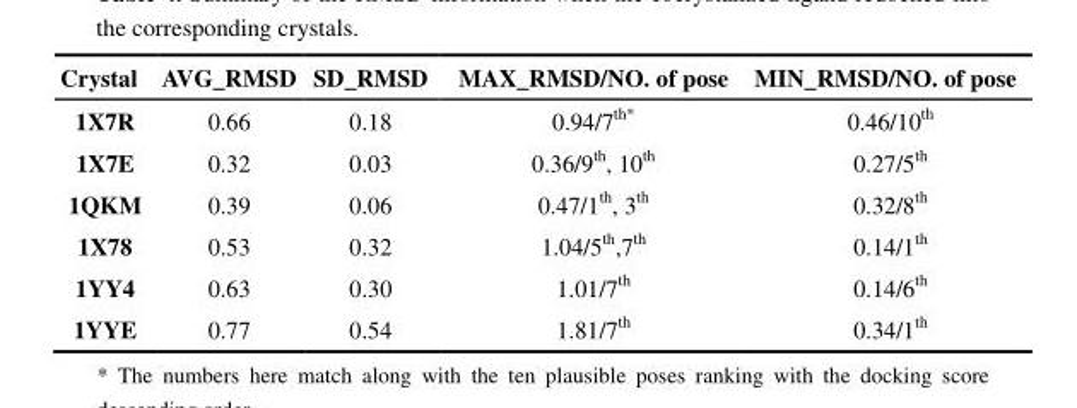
<table><thead><tr><td>Crystal</td><td>AVG_RMSD</td><td>SD_RMSD</td><td>MAX_RMSD/NO. of pose</td><td>MIN_RMSD/NO. of pose</td></tr></thead><tbody><tr><td>1X7R</td><td>0.66</td><td>0.18</td><td>0.94/7<sup>th</sup>*</td><td>0.46/10<sup>th</sup></td></tr><tr><td>1X7E</td><td>0.32</td><td>0.03</td><td>0.36/9<sup>th</sup>, 10<sup>th</sup></td><td>0.27/5<sup>th</sup></td></tr><tr><td>1QKM</td><td>0.39</td><td>0.06</td><td>0.47/1<sup>th</sup>, 3<sup>th</sup></td><td>0.32/8<sup>th</sup></td></tr><tr><td>1X78</td><td>0.53</td><td>0.32</td><td>1.04/5<sup>th</sup>,7<sup>th</sup></td><td>0.14/1<sup>th</sup></td></tr><tr><td>1YY4</td><td>0.63</td><td>0.30</td><td>1.01/7<sup>th</sup></td><td>0.14/6<sup>th</sup></td></tr><tr><td>1YYE</td><td>0.77</td><td>0.54</td><td>1.81/7<sup>th</sup></td><td>0.34/1<sup>th</sup></td></tr></tbody></table>